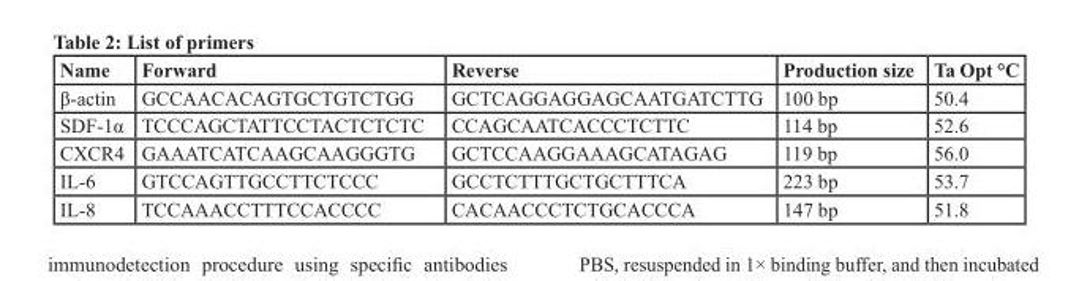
<table><thead><tr><td>Name</td><td>Forward</td><td>Reverse</td><td>Production size</td><td>Ta Opt °C</td></tr></thead><tbody><tr><td>β-actin</td><td>GCCAACACAGTGCTGTCTGG</td><td>GCTCAGGAGGAGCAATGATCTTG</td><td>100 bp</td><td>50.4</td></tr><tr><td>SDF-1α</td><td>TCCCAGCTATTCCTACTCTCTC</td><td>CCAGCAATCACCCTCTTC</td><td>114 bp</td><td>52.6</td></tr><tr><td>CXCR4</td><td>GAAATCATCAAGCAAGGGTG</td><td>GCTCCAAGGAAAGCATAGAG</td><td>119 bp</td><td>56.0</td></tr><tr><td>IL-6</td><td>GTCCAGTTGCCTTCTCCC</td><td>GCCTCTTTGCTGCTTTCA</td><td>223 bp</td><td>53.7</td></tr><tr><td>IL-8</td><td>TCCAAACCTTTCCACCCC</td><td>CACAACCCTCTGCACCCA</td><td>147 bp</td><td>51.8</td></tr></tbody></table>